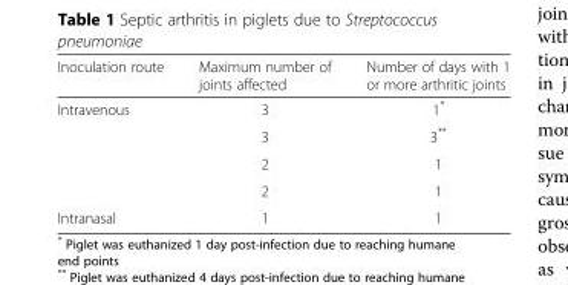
<table><thead><tr><td>Inoculation route</td><td>Maximum number of joints affected</td><td>Number of days with 1 or more arthritic joints</td></tr></thead><tbody><tr><td rowspan="4">Intravenous</td><td>3</td><td>1*</td></tr><tr><td>3</td><td>3**</td></tr><tr><td>2</td><td>1</td></tr><tr><td>2</td><td>1</td></tr><tr><td>Intranasal</td><td>1</td><td>1</td></tr></tbody></table>